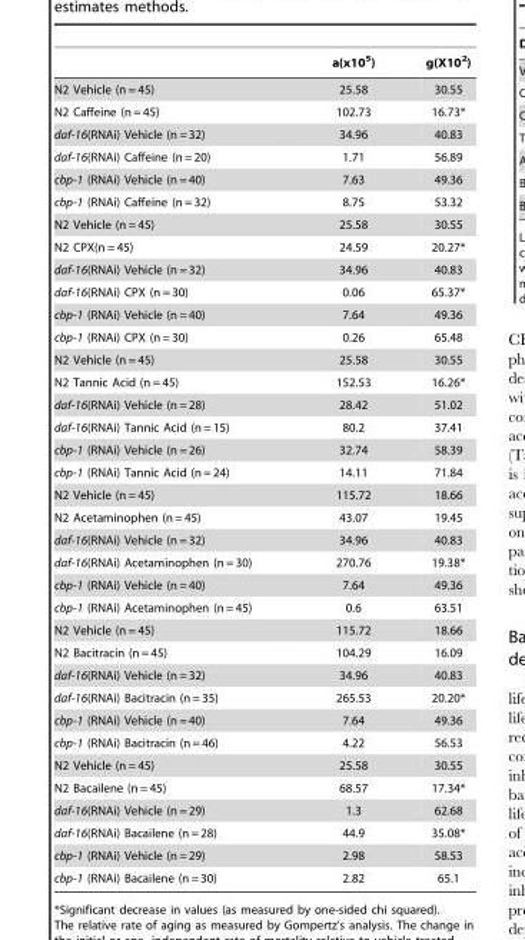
<table><thead><tr><td></td><td>a(x10<sup>5</sup>)</td><td>g(X10<sup>2</sup>)</td></tr></thead><tbody><tr><td>N2 Vehicle (n = 45)</td><td>25.58</td><td>30.55</td></tr><tr><td>N2 Caffeine (n = 45)</td><td>102.73</td><td>16.73*</td></tr><tr><td>daf-16(RNAi) Vehicle (n = 32)</td><td>34.96</td><td>40.83</td></tr><tr><td>daf-16(RNAi) Caffeine (n = 20)</td><td>1.71</td><td>56.89</td></tr><tr><td>cbp-1 (RNAi) Vehicle (n = 40)</td><td>7.63</td><td>49.36</td></tr><tr><td>cbp-1 (RNAi) Caffeine (n = 32)</td><td>8.75</td><td>53.32</td></tr><tr><td>N2 Vehicle (n = 45)</td><td>25.58</td><td>30.55</td></tr><tr><td>N2 CPX(n = 45)</td><td>24.59</td><td>20.27*</td></tr><tr><td>daf-16(RNAi) Vehicle (n = 32)</td><td>34.96</td><td>40.83</td></tr><tr><td>daf-16(RNAi) CPX (n = 30)</td><td>0.06</td><td>65.37*</td></tr><tr><td>cbp-1 (RNAi) Vehicle (n = 40)</td><td>7.64</td><td>49.36</td></tr><tr><td>cbp-1 (RNAi) CPX (n = 30)</td><td>0.26</td><td>65.48</td></tr><tr><td>N2 Vehicle (n = 45)</td><td>25.58</td><td>30.55</td></tr><tr><td>N2 Tannic Acid (n = 45)</td><td>152.53</td><td>16.26*</td></tr><tr><td>daf-16(RNAi) Vehicle (n = 28)</td><td>28.42</td><td>51.02</td></tr><tr><td>daf-16(RNAi) Tannic Acid (n = 15)</td><td>80.2</td><td>37.41</td></tr><tr><td>cbp-1 (RNAi) Vehicle (n = 26)</td><td>32.74</td><td>58.39</td></tr><tr><td>cbp-1 (RNAi) Tannic Acid (n = 24)</td><td>14.11</td><td>71.84</td></tr><tr><td>N2 Vehicle (n = 45)</td><td>115.72</td><td>18.66</td></tr><tr><td>N2 Acetaminophen (n = 45)</td><td>43.07</td><td>19.45</td></tr><tr><td>daf-16(RNAi) Vehicle (n = 32)</td><td>34.96</td><td>40.83</td></tr><tr><td>daf-16(RNAi) Acetaminophen (n = 30)</td><td>270.76</td><td>19.38*</td></tr><tr><td>cbp-1 (RNAi) Vehicle (n = 40)</td><td>7.64</td><td>49.36</td></tr><tr><td>cbp-1 (RNAi) Acetaminophen (n = 45)</td><td>0.6</td><td>63.51</td></tr><tr><td>N2 Vehicle (n = 45)</td><td>115.72</td><td>18.66</td></tr><tr><td>N2 Bacitracin (n = 45)</td><td>104.29</td><td>16.09</td></tr><tr><td>daf-16(RNAi) Vehicle (n = 32)</td><td>34.96</td><td>40.83</td></tr><tr><td>daf-16(RNAi) Bacitracin (n = 35)</td><td>265.53</td><td>20.20*</td></tr><tr><td>cbp-1 (RNAi) Vehicle (n = 40)</td><td>7.64</td><td>49.36</td></tr><tr><td>cbp-1 (RNAi) Bacitracin (n = 46)</td><td>4.22</td><td>56.53</td></tr><tr><td>N2 Vehicle (n = 45)</td><td>25.58</td><td>30.55</td></tr><tr><td>N2 Bacailene (n = 45)</td><td>68.57</td><td>17.34*</td></tr><tr><td>daf-16(RNAi) Vehicle (n = 29)</td><td>1.3</td><td>62.68</td></tr><tr><td>daf-16(RNAi) Bacailene (n = 28)</td><td>44.9</td><td>35.08*</td></tr><tr><td>cbp-1 (RNAi) Vehicle (n = 29)</td><td>2.98</td><td>58.53</td></tr><tr><td>cbp-1 (RNAi) Bacailene (n = 30)</td><td>2.82</td><td>65.1</td></tr></tbody></table>